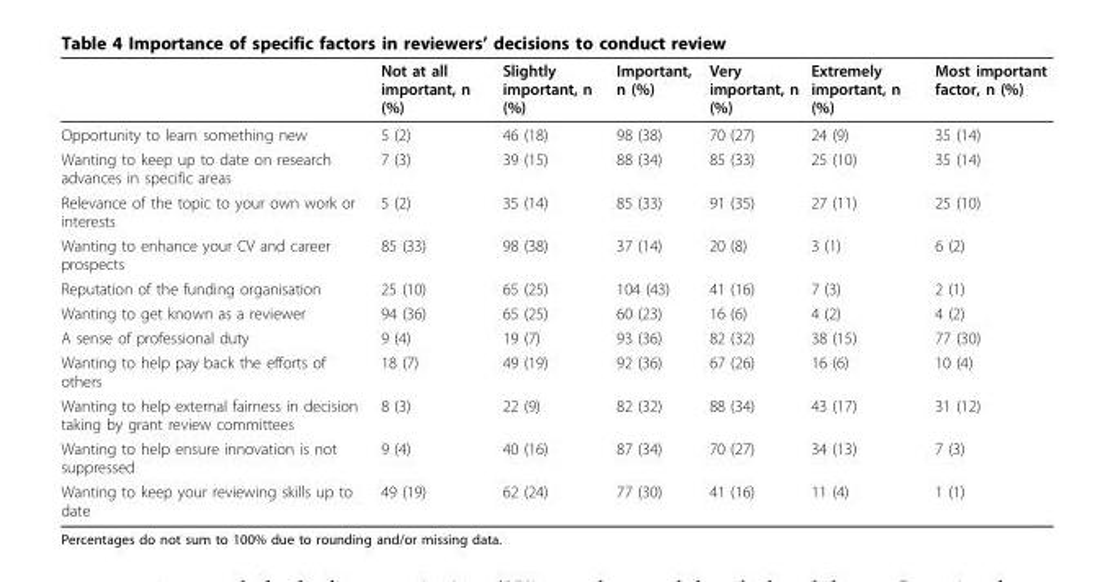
<table><thead><tr><td></td><td>Not at all important, n (%)</td><td>Slightly important, n (%)</td><td>Important, n (%)</td><td>Very important, n (%)</td><td>Extremely important, n (%)</td><td>Most important factor, n (%)</td></tr></thead><tbody><tr><td>Opportunity to learn something new</td><td>5 (2)</td><td>46 (18)</td><td>98 (38)</td><td>70 (27)</td><td>24 (9)</td><td>35 (14)</td></tr><tr><td>Wanting to keep up to date on research advances in specific areas</td><td>7 (3)</td><td>39 (15)</td><td>88 (34)</td><td>85 (33)</td><td>25 (10)</td><td>35 (14)</td></tr><tr><td>Relevance of the topic to your own work or interests</td><td>5 (2)</td><td>35 (14)</td><td>85 (33)</td><td>91 (35)</td><td>27 (11)</td><td>25 (10)</td></tr><tr><td>Wanting to enhance your CV and career prospects</td><td>85 (33)</td><td>98 (38)</td><td>37 (14)</td><td>20 (8)</td><td>3 (1)</td><td>6 (2)</td></tr><tr><td>Reputation of the funding organisation</td><td>25 (10)</td><td>65 (25)</td><td>104 (43)</td><td>41 (16)</td><td>7 (3)</td><td>2 (1)</td></tr><tr><td>Wanting to get known as a reviewer</td><td>94 (36)</td><td>65 (25)</td><td>60 (23)</td><td>16 (6)</td><td>4 (2)</td><td>4 (2)</td></tr><tr><td>A sense of professional duty</td><td>9 (4)</td><td>19 (7)</td><td>93 (36)</td><td>82 (32)</td><td>38 (15)</td><td>77 (30)</td></tr><tr><td>Wanting to help pay back the efforts of others</td><td>18 (7)</td><td>49 (19)</td><td>92 (36)</td><td>67 (26)</td><td>16 (6)</td><td>10 (4)</td></tr><tr><td>Wanting to help external fairness in decision taking by grant review committees</td><td>8 (3)</td><td>22 (9)</td><td>82 (32)</td><td>88 (34)</td><td>43 (17)</td><td>31 (12)</td></tr><tr><td>Wanting to help ensure innovation is not suppressed</td><td>9 (4)</td><td>40 (16)</td><td>87 (34)</td><td>70 (27)</td><td>34 (13)</td><td>7 (3)</td></tr><tr><td>Wanting to keep your reviewing skills up to date</td><td>49 (19)</td><td>62 (24)</td><td>77 (30)</td><td>41 (16)</td><td>11 (4)</td><td>1 (1)</td></tr></tbody></table>